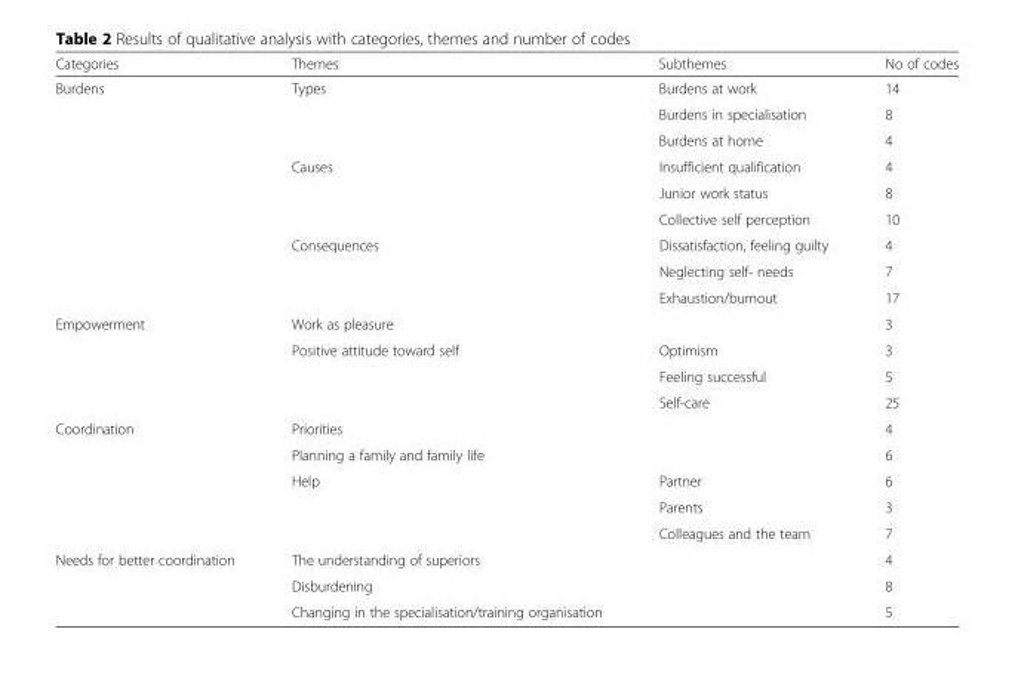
<table><thead><tr><td>Categories</td><td>Themes</td><td>Subthemes</td><td>No of codes</td></tr></thead><tbody><tr><td rowspan="9">Burdens</td><td rowspan="3">Types</td><td>Burdens at work</td><td>14</td></tr><tr><td>Burdens in specialisation</td><td>8</td></tr><tr><td>Burdens at home</td><td>4</td></tr><tr><td rowspan="3">Causes</td><td>Insufficient qualification</td><td>4</td></tr><tr><td>Junior work status</td><td>8</td></tr><tr><td>Collective self perception</td><td>10</td></tr><tr><td rowspan="3">Consequences</td><td>Dissatisfaction, feeling guilty</td><td>4</td></tr><tr><td>Neglecting self- needs</td><td>7</td></tr><tr><td>Exhaustion/burnout</td><td>17</td></tr><tr><td rowspan="4">Empowerment</td><td>Work as pleasure</td><td></td><td>3</td></tr><tr><td rowspan="3">Positive attitude toward self</td><td>Optimism</td><td>3</td></tr><tr><td>Feeling successful</td><td>5</td></tr><tr><td>Self-care</td><td>25</td></tr><tr><td rowspan="5">Coordination</td><td>Priorities</td><td></td><td>4</td></tr><tr><td>Planning a family and family life</td><td></td><td>6</td></tr><tr><td rowspan="3">Help</td><td>Partner</td><td>6</td></tr><tr><td>Parents</td><td>3</td></tr><tr><td>Colleagues and the team</td><td>7</td></tr><tr><td rowspan="3">Needs for better coordination</td><td>The understanding of superiors</td><td></td><td>4</td></tr><tr><td>Disburdening</td><td></td><td>8</td></tr><tr><td>Changing in the specialisation/training organisation</td><td></td><td>5</td></tr></tbody></table>